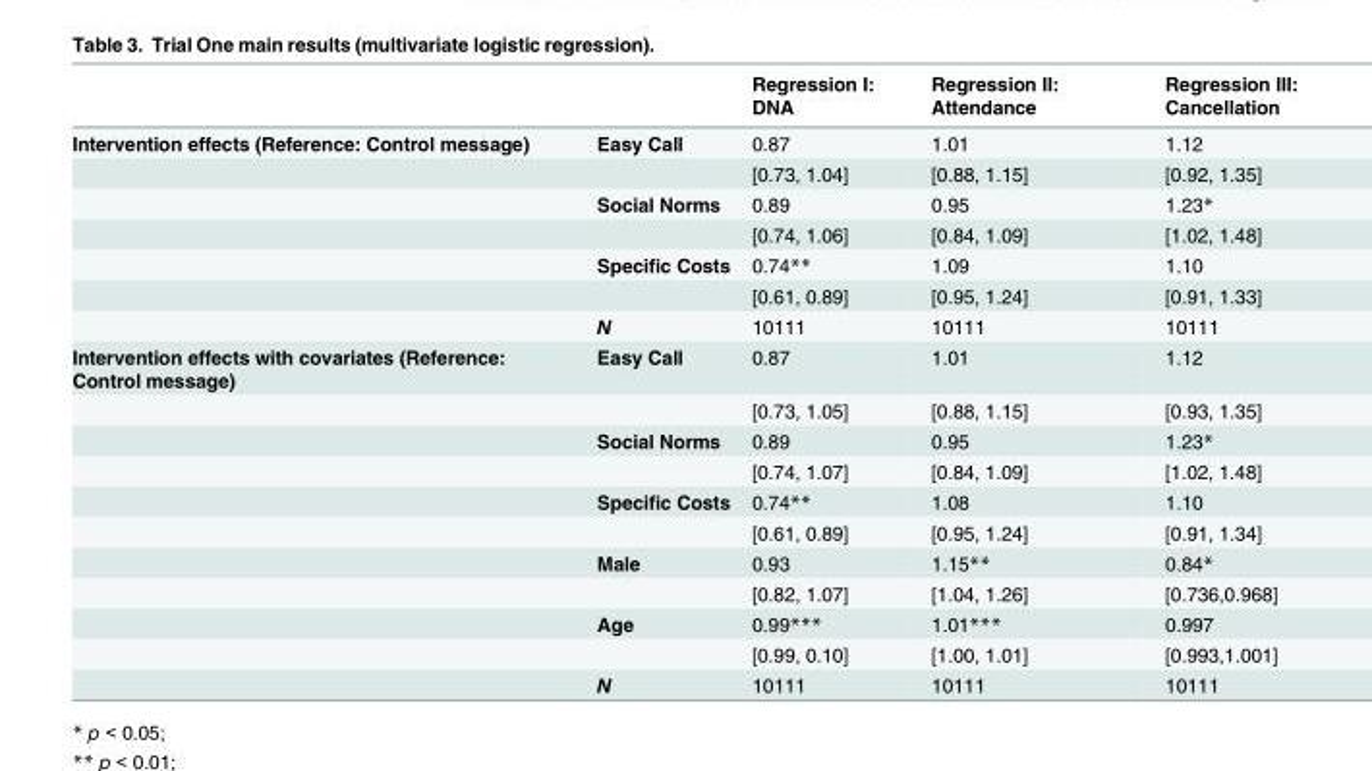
<table><thead><tr><td></td><td></td><td>Regression I: DNA</td><td>Regression II: Attendance</td><td>Regression III: Cancellation</td></tr></thead><tbody><tr><td rowspan="7">Intervention effects (Reference: Control message)</td><td>Easy Call</td><td>0.87</td><td>1.01</td><td>1.12</td></tr><tr><td></td><td>[0.73, 1.04]</td><td>[0.88, 1.15]</td><td>[0.92, 1.35]</td></tr><tr><td>Social Norms</td><td>0.89</td><td>0.95</td><td>1.23*</td></tr><tr><td></td><td>[0.74, 1.06]</td><td>[0.84, 1.09]</td><td>[1.02, 1.48]</td></tr><tr><td>Specific Costs</td><td>0.74**</td><td>1.09</td><td>1.10</td></tr><tr><td></td><td>[0.61, 0.89]</td><td>[0.95, 1.24]</td><td>[0.91, 1.33]</td></tr><tr><td>N</td><td>10111</td><td>10111</td><td>10111</td></tr><tr><td rowspan="11">Intervention effects with covariates (Reference: Control message)</td><td>Easy Call</td><td>0.87</td><td>1.01</td><td>1.12</td></tr><tr><td></td><td>[0.73, 1.05]</td><td>[0.88, 1.15]</td><td>[0.93, 1.35]</td></tr><tr><td>Social Norms</td><td>0.89</td><td>0.95</td><td>1.23*</td></tr><tr><td></td><td>[0.74, 1.07]</td><td>[0.84, 1.09]</td><td>[1.02, 1.48]</td></tr><tr><td>Specific Costs</td><td>0.74**</td><td>1.08</td><td>1.10</td></tr><tr><td></td><td>[0.61, 0.89]</td><td>[0.95, 1.24]</td><td>[0.91, 1.34]</td></tr><tr><td>Male</td><td>0.93</td><td>1.15**</td><td>0.84*</td></tr><tr><td></td><td>[0.82, 1.07]</td><td>[1.04, 1.26]</td><td>[0.736,0.968]</td></tr><tr><td>Age</td><td>0.99***</td><td>1.01***</td><td>0.997</td></tr><tr><td></td><td>[0.99, 0.10]</td><td>[1.00, 1.01]</td><td>[0.993,1.001]</td></tr><tr><td>N</td><td>10111</td><td>10111</td><td>10111</td></tr></tbody></table>